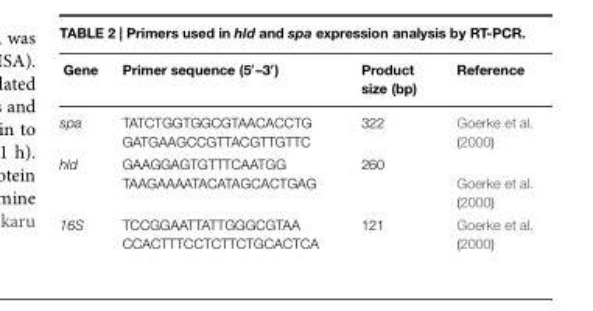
<table><thead><tr><td>Gene</td><td>Primer sequence (5′–3′)</td><td>Product size (bp)</td><td>Reference</td></tr></thead><tbody><tr><td>spa</td><td>TATCTGGTGGCGTAACACCTG GATGAAGCCGTTACGTTGTTC</td><td>322</td><td>Goerke et al. (2000)</td></tr><tr><td>hld</td><td>GAAGGAGTGTTTCAATGG TAAGAAAATACATAGCACTGAG</td><td>260</td><td>Goerke et al. (2000)</td></tr><tr><td>16S</td><td>TCCGGAATTATTGGGCGTAA CCACTTTCCTCTTCTGCACTCA</td><td>121</td><td>Goerke et al. (2000)</td></tr></tbody></table>